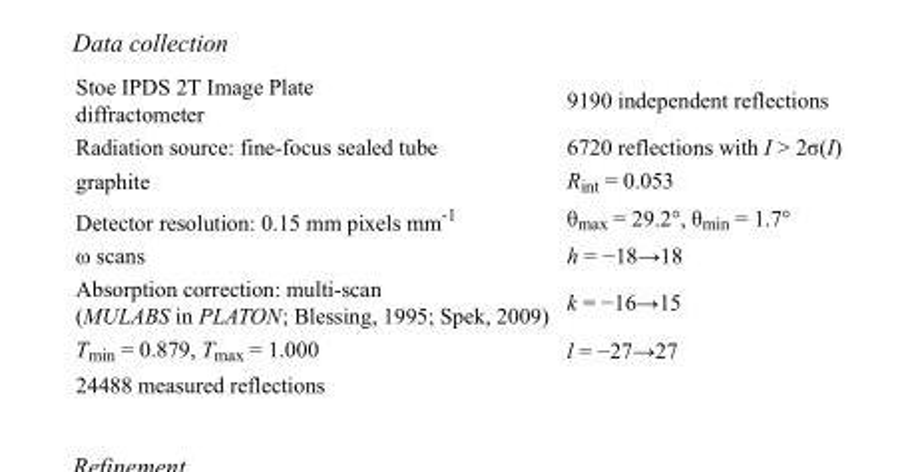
<table><tbody><tr><td>Stoe IPDS 2T Image Plate diffractometer</td><td>9190 independent reflections</td></tr><tr><td>Radiation source: fine-focus sealed tube</td><td>6720 reflections with I &gt; 2σ(I)</td></tr><tr><td>graphite</td><td>R<sub>int</sub> = 0.053</td></tr><tr><td>Detector resolution: 0.15 mm pixels mm<sup>-1</sup></td><td>θ<sub>max</sub> = 29.2°, θ<sub>min</sub> = 1.7°</td></tr><tr><td>ω scans</td><td>h = −18→18</td></tr><tr><td>Absorption correction: multi-scan (MULABS in PLATON; Blessing, 1995; Spek, 2009)</td><td>k = −16→15</td></tr><tr><td>T<sub>min</sub> = 0.879, T<sub>max</sub> = 1.000</td><td>l = −27→27</td></tr><tr><td>24488 measured reflections</td><td></td></tr></tbody></table>